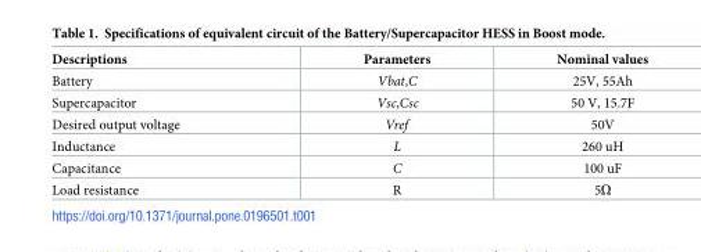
<table><thead><tr><td>Descriptions</td><td>Parameters</td><td>Nominal values</td></tr></thead><tbody><tr><td>Battery</td><td>Vbat,C</td><td>25V, 55Ah</td></tr><tr><td>Supercapacitor</td><td>Vsc,Csc</td><td>50 V, 15.7F</td></tr><tr><td>Desired output voltage</td><td>Vref</td><td>50V</td></tr><tr><td>Inductance</td><td>L</td><td>260 uH</td></tr><tr><td>Capacitance</td><td>C</td><td>100 uF</td></tr><tr><td>Load resistance</td><td>R</td><td>5Ω</td></tr></tbody></table>